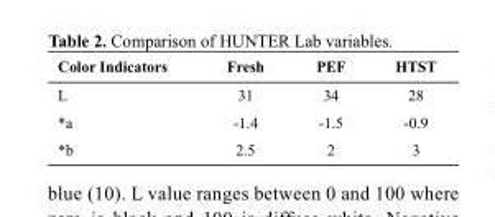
<table><thead><tr><td>Color Indicators</td><td>Fresh</td><td>PEF</td><td>HTST</td></tr></thead><tbody><tr><td>L</td><td>31</td><td>34</td><td>28</td></tr><tr><td>*a</td><td>-1.4</td><td>-1.5</td><td>-0.9</td></tr><tr><td>*b</td><td>2.5</td><td>2</td><td>3</td></tr></tbody></table>